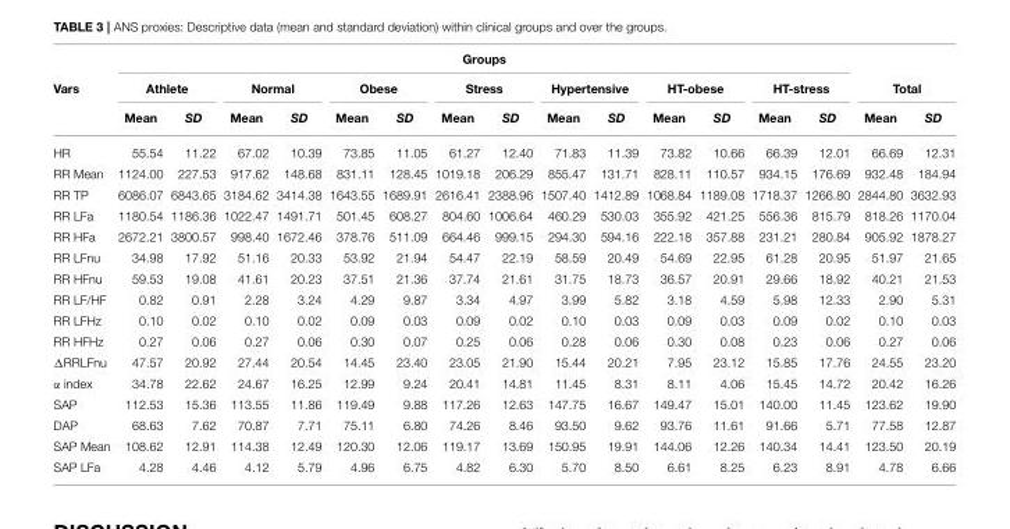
<table><thead><tr><td rowspan="3">Vars</td><td colspan="14">Groups</td><td></td><td></td></tr><tr><td colspan="2">Athlete</td><td colspan="2">Normal</td><td colspan="2">Obese</td><td colspan="2">Stress</td><td colspan="2">Hypertensive</td><td colspan="2">HT-obese</td><td colspan="2">HT-stress</td><td colspan="2">Total</td></tr><tr><td>Mean</td><td>SD</td><td>Mean</td><td>SD</td><td>Mean</td><td>SD</td><td>Mean</td><td>SD</td><td>Mean</td><td>SD</td><td>Mean</td><td>SD</td><td>Mean</td><td>SD</td><td>Mean</td><td>SD</td></tr></thead><tbody><tr><td>HR</td><td>55.54</td><td>11.22</td><td>67.02</td><td>10.39</td><td>73.85</td><td>11.05</td><td>61.27</td><td>12.40</td><td>71.83</td><td>11.39</td><td>73.82</td><td>10.66</td><td>66.39</td><td>12.01</td><td>66.69</td><td>12.31</td></tr><tr><td>RR Mean</td><td>1124.00</td><td>227.53</td><td>917.62</td><td>148.68</td><td>831.11</td><td>128.45</td><td>1019.18</td><td>206.29</td><td>855.47</td><td>131.71</td><td>828.11</td><td>110.57</td><td>934.15</td><td>176.69</td><td>932.48</td><td>184.94</td></tr><tr><td>RR TP</td><td>6086.07</td><td>6843.65</td><td>3184.62</td><td>3414.38</td><td>1643.55</td><td>1689.91</td><td>2616.41</td><td>2388.96</td><td>1507.40</td><td>1412.89</td><td>1068.84</td><td>1189.08</td><td>1718.37</td><td>1266.80</td><td>2844.80</td><td>3632.93</td></tr><tr><td>RR LFa</td><td>1180.54</td><td>1186.36</td><td>1022.47</td><td>1491.71</td><td>501.45</td><td>608.27</td><td>804.60</td><td>1006.64</td><td>460.29</td><td>530.03</td><td>355.92</td><td>421.25</td><td>556.36</td><td>815.79</td><td>818.26</td><td>1170.04</td></tr><tr><td>RR HFa</td><td>2672.21</td><td>3800.57</td><td>998.40</td><td>1672.46</td><td>378.76</td><td>511.09</td><td>664.46</td><td>999.15</td><td>294.30</td><td>594.16</td><td>222.18</td><td>357.88</td><td>231.21</td><td>280.84</td><td>905.92</td><td>1878.27</td></tr><tr><td>RR LFnu</td><td>34.98</td><td>17.92</td><td>51.16</td><td>20.33</td><td>53.92</td><td>21.94</td><td>54.47</td><td>22.19</td><td>58.59</td><td>20.49</td><td>54.69</td><td>22.95</td><td>61.28</td><td>20.95</td><td>51.97</td><td>21.65</td></tr><tr><td>RR HFnu</td><td>59.53</td><td>19.08</td><td>41.61</td><td>20.23</td><td>37.51</td><td>21.36</td><td>37.74</td><td>21.61</td><td>31.75</td><td>18.73</td><td>36.57</td><td>20.91</td><td>29.66</td><td>18.92</td><td>40.21</td><td>21.53</td></tr><tr><td>RR LF/HF</td><td>0.82</td><td>0.91</td><td>2.28</td><td>3.24</td><td>4.29</td><td>9.87</td><td>3.34</td><td>4.97</td><td>3.99</td><td>5.82</td><td>3.18</td><td>4.59</td><td>5.98</td><td>12.33</td><td>2.90</td><td>5.31</td></tr><tr><td>RR LFHz</td><td>0.10</td><td>0.02</td><td>0.10</td><td>0.02</td><td>0.09</td><td>0.03</td><td>0.09</td><td>0.02</td><td>0.10</td><td>0.03</td><td>0.09</td><td>0.03</td><td>0.09</td><td>0.02</td><td>0.10</td><td>0.03</td></tr><tr><td>RR HFHz</td><td>0.27</td><td>0.06</td><td>0.27</td><td>0.06</td><td>0.30</td><td>0.07</td><td>0.25</td><td>0.06</td><td>0.28</td><td>0.06</td><td>0.30</td><td>0.08</td><td>0.23</td><td>0.06</td><td>0.27</td><td>0.06</td></tr><tr><td>ΔRRLFnu</td><td>47.57</td><td>20.92</td><td>27.44</td><td>20.54</td><td>14.45</td><td>23.40</td><td>23.05</td><td>21.90</td><td>15.44</td><td>20.21</td><td>7.95</td><td>23.12</td><td>15.85</td><td>17.76</td><td>24.55</td><td>23.20</td></tr><tr><td>α index</td><td>34.78</td><td>22.62</td><td>24.67</td><td>16.25</td><td>12.99</td><td>9.24</td><td>20.41</td><td>14.81</td><td>11.45</td><td>8.31</td><td>8.11</td><td>4.06</td><td>15.45</td><td>14.72</td><td>20.42</td><td>16.26</td></tr><tr><td>SAP</td><td>112.53</td><td>15.36</td><td>113.55</td><td>11.86</td><td>119.49</td><td>9.88</td><td>117.26</td><td>12.63</td><td>147.75</td><td>16.67</td><td>149.47</td><td>15.01</td><td>140.00</td><td>11.45</td><td>123.62</td><td>19.90</td></tr><tr><td>DAP</td><td>68.63</td><td>7.62</td><td>70.87</td><td>7.71</td><td>75.11</td><td>6.80</td><td>74.26</td><td>8.46</td><td>93.50</td><td>9.62</td><td>93.76</td><td>11.61</td><td>91.66</td><td>5.71</td><td>77.58</td><td>12.87</td></tr><tr><td>SAP Mean</td><td>108.62</td><td>12.91</td><td>114.38</td><td>12.49</td><td>120.30</td><td>12.06</td><td>119.17</td><td>13.69</td><td>150.95</td><td>19.91</td><td>144.06</td><td>12.26</td><td>140.34</td><td>14.41</td><td>123.50</td><td>20.19</td></tr><tr><td>SAP LFa</td><td>4.28</td><td>4.46</td><td>4.12</td><td>5.79</td><td>4.96</td><td>6.75</td><td>4.82</td><td>6.30</td><td>5.70</td><td>8.50</td><td>6.61</td><td>8.25</td><td>6.23</td><td>8.91</td><td>4.78</td><td>6.66</td></tr></tbody></table>